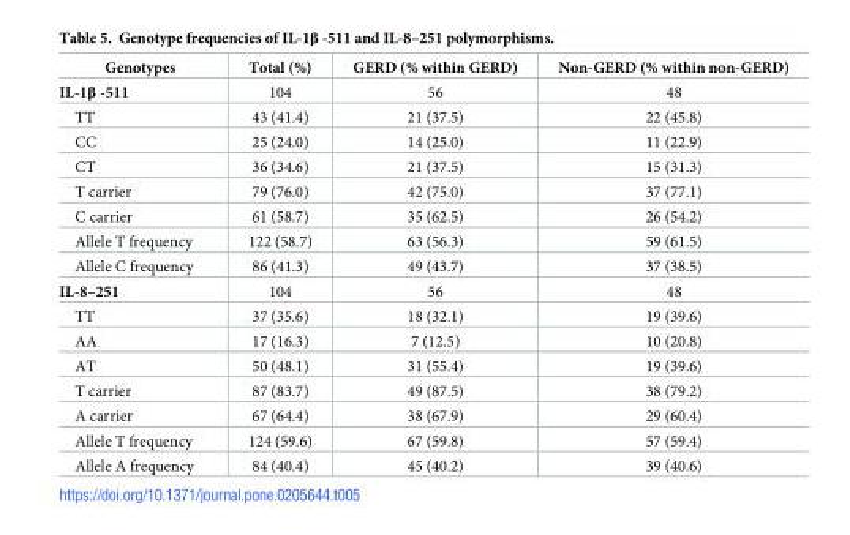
<table><thead><tr><td>Genotypes</td><td>Total (%)</td><td>GERD (% within GERD)</td><td>Non-GERD (% within non-GERD)</td></tr></thead><tbody><tr><td>IL-1β -511</td><td>104</td><td>56</td><td>48</td></tr><tr><td>TT</td><td>43 (41.4)</td><td>21 (37.5)</td><td>22 (45.8)</td></tr><tr><td>CC</td><td>25 (24.0)</td><td>14 (25.0)</td><td>11 (22.9)</td></tr><tr><td>CT</td><td>36 (34.6)</td><td>21 (37.5)</td><td>15 (31.3)</td></tr><tr><td>T carrier</td><td>79 (76.0)</td><td>42 (75.0)</td><td>37 (77.1)</td></tr><tr><td>C carrier</td><td>61 (58.7)</td><td>35 (62.5)</td><td>26 (54.2)</td></tr><tr><td>Allele T frequency</td><td>122 (58.7)</td><td>63 (56.3)</td><td>59 (61.5)</td></tr><tr><td>Allele C frequency</td><td>86 (41.3)</td><td>49 (43.7)</td><td>37 (38.5)</td></tr><tr><td>IL-8–251</td><td>104</td><td>56</td><td>48</td></tr><tr><td>TT</td><td>37 (35.6)</td><td>18 (32.1)</td><td>19 (39.6)</td></tr><tr><td>AA</td><td>17 (16.3)</td><td>7 (12.5)</td><td>10 (20.8)</td></tr><tr><td>AT</td><td>50 (48.1)</td><td>31 (55.4)</td><td>19 (39.6)</td></tr><tr><td>T carrier</td><td>87 (83.7)</td><td>49 (87.5)</td><td>38 (79.2)</td></tr><tr><td>A carrier</td><td>67 (64.4)</td><td>38 (67.9)</td><td>29 (60.4)</td></tr><tr><td>Allele T frequency</td><td>124 (59.6)</td><td>67 (59.8)</td><td>57 (59.4)</td></tr><tr><td>Allele A frequency</td><td>84 (40.4)</td><td>45 (40.2)</td><td>39 (40.6)</td></tr></tbody></table>